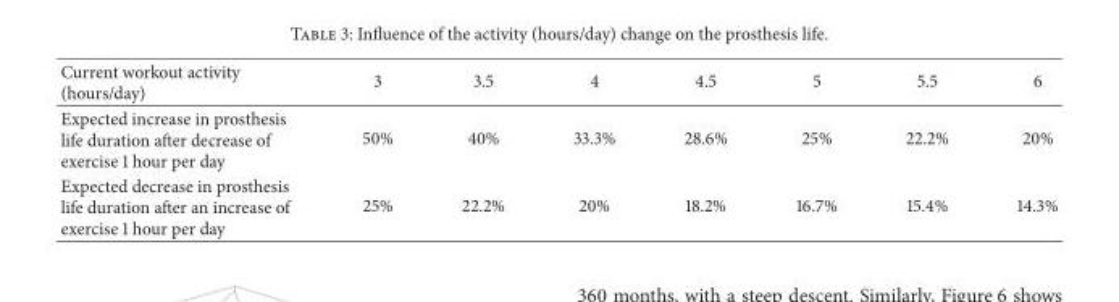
<table><thead><tr><td>Current workout activity (hours/day)</td><td>3</td><td>3.5</td><td>4</td><td>4.5</td><td>5</td><td>5.5</td><td>6</td></tr></thead><tbody><tr><td>Expected increase in prosthesis life duration after decrease of exercise 1 hour per day</td><td>50%</td><td>40%</td><td>33.3%</td><td>28.6%</td><td>25%</td><td>22.2%</td><td>20%</td></tr><tr><td>Expected decrease in prosthesis life duration after an increase of exercise 1 hour per day</td><td>25%</td><td>22.2%</td><td>20%</td><td>18.2%</td><td>16.7%</td><td>15.4%</td><td>14.3%</td></tr></tbody></table>